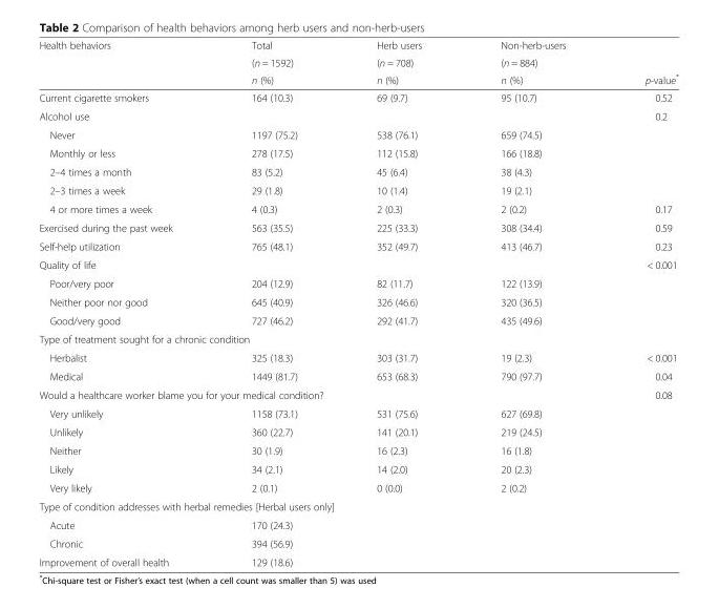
<table><thead><tr><td rowspan="3">Health behaviors</td><td rowspan="3">Total (n = 1592) n (%)</td><td rowspan="3">Herb users (n = 708) n (%)</td><td rowspan="3">Non-herb-users (n = 884) n (%)</td><td rowspan="3">p-value*</td></tr><tr></tr><tr></tr></thead><tbody><tr><td>Current cigarette smokers</td><td>164 (10.3)</td><td>69 (9.7)</td><td>95 (10.7)</td><td>0.52</td></tr><tr><td>Alcohol use</td><td></td><td></td><td></td><td>0.2</td></tr><tr><td>Never</td><td>1197 (75.2)</td><td>538 (76.1)</td><td>659 (74.5)</td><td></td></tr><tr><td>Monthly or less</td><td>278 (17.5)</td><td>112 (15.8)</td><td>166 (18.8)</td><td></td></tr><tr><td>2–4 times a month</td><td>83 (5.2)</td><td>45 (6.4)</td><td>38 (4.3)</td><td></td></tr><tr><td>2–3 times a week</td><td>29 (1.8)</td><td>10 (1.4)</td><td>19 (2.1)</td><td></td></tr><tr><td>4 or more times a week</td><td>4 (0.3)</td><td>2 (0.3)</td><td>2 (0.2)</td><td>0.17</td></tr><tr><td>Exercised during the past week</td><td>563 (35.5)</td><td>225 (33.3)</td><td>308 (34.4)</td><td>0.59</td></tr><tr><td>Self-help utilization</td><td>765 (48.1)</td><td>352 (49.7)</td><td>413 (46.7)</td><td>0.23</td></tr><tr><td>Quality of life</td><td></td><td></td><td></td><td>&lt; 0.001</td></tr><tr><td>Poor/very poor</td><td>204 (12.9)</td><td>82 (11.7)</td><td>122 (13.9)</td><td></td></tr><tr><td>Neither poor nor good</td><td>645 (40.9)</td><td>326 (46.6)</td><td>320 (36.5)</td><td></td></tr><tr><td>Good/very good</td><td>727 (46.2)</td><td>292 (41.7)</td><td>435 (49.6)</td><td></td></tr><tr><td colspan="5">Type of treatment sought for a chronic condition</td></tr><tr><td>Herbalist</td><td>325 (18.3)</td><td>303 (31.7)</td><td>19 (2.3)</td><td>&lt; 0.001</td></tr><tr><td>Medical</td><td>1449 (81.7)</td><td>653 (68.3)</td><td>790 (97.7)</td><td>0.04</td></tr><tr><td colspan="4">Would a healthcare worker blame you for your medical condition?</td><td>0.08</td></tr><tr><td>Very unlikely</td><td>1158 (73.1)</td><td>531 (75.6)</td><td>627 (69.8)</td><td></td></tr><tr><td>Unlikely</td><td>360 (22.7)</td><td>141 (20.1)</td><td>219 (24.5)</td><td></td></tr><tr><td>Neither</td><td>30 (1.9)</td><td>16 (2.3)</td><td>16 (1.8)</td><td></td></tr><tr><td>Likely</td><td>34 (2.1)</td><td>14 (2.0)</td><td>20 (2.3)</td><td></td></tr><tr><td>Very likely</td><td>2 (0.1)</td><td>0 (0.0)</td><td>2 (0.2)</td><td></td></tr><tr><td colspan="5">Type of condition addresses with herbal remedies [Herbal users only]</td></tr><tr><td>Acute</td><td>170 (24.3)</td><td></td><td></td><td></td></tr><tr><td>Chronic</td><td>394 (56.9)</td><td></td><td></td><td></td></tr><tr><td>Improvement of overall health</td><td>129 (18.6)</td><td></td><td></td><td></td></tr></tbody></table>